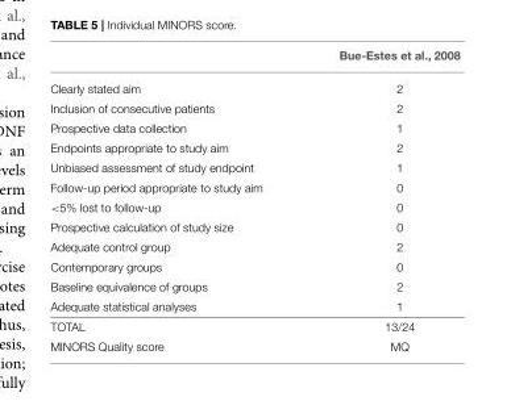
<table><thead><tr><td></td><td>Bue-Estes et al., 2008</td></tr></thead><tbody><tr><td>Clearly stated aim</td><td>2</td></tr><tr><td>Inclusion of consecutive patients</td><td>2</td></tr><tr><td>Prospective data collection</td><td>1</td></tr><tr><td>Endpoints appropriate to study aim</td><td>2</td></tr><tr><td>Unbiased assessment of study endpoint</td><td>1</td></tr><tr><td>Follow-up period appropriate to study aim</td><td>0</td></tr><tr><td>&lt;5% lost to follow-up</td><td>0</td></tr><tr><td>Prospective calculation of study size</td><td>0</td></tr><tr><td>Adequate control group</td><td>2</td></tr><tr><td>Contemporary groups</td><td>0</td></tr><tr><td>Baseline equivalence of groups</td><td>2</td></tr><tr><td>Adequate statistical analyses</td><td>1</td></tr><tr><td>TOTAL</td><td>13/24</td></tr><tr><td>MINORS Quality score</td><td>MQ</td></tr></tbody></table>